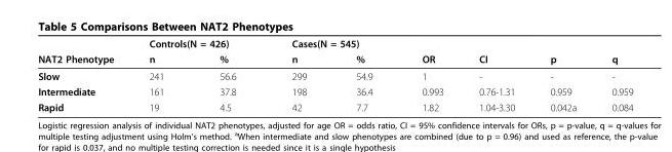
<table><thead><tr><td rowspan="2">NAT2 Phenotype</td><td colspan="2">Controls(N = 426)</td><td colspan="2">Cases(N = 545)</td><td rowspan="2">OR</td><td rowspan="2">CI</td><td rowspan="2">p</td><td rowspan="2">q</td></tr><tr><td>n</td><td>%</td><td>n</td><td>%</td></tr></thead><tbody><tr><td>Slow</td><td>241</td><td>56.6</td><td>299</td><td>54.9</td><td>1</td><td>-</td><td>-</td><td>-</td></tr><tr><td>Intermediate</td><td>161</td><td>37.8</td><td>198</td><td>36.4</td><td>0.993</td><td>0.76-1.31</td><td>0.959</td><td>0.959</td></tr><tr><td>Rapid</td><td>19</td><td>4.5</td><td>42</td><td>7.7</td><td>1.82</td><td>1.04-3.30</td><td>0.042a</td><td>0.084</td></tr></tbody></table>